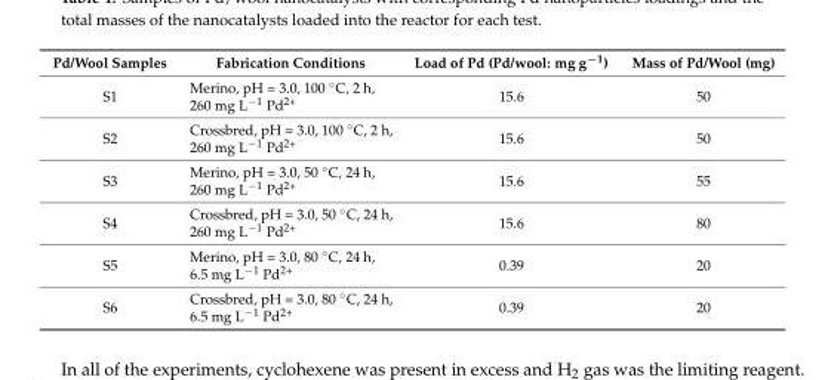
<table><thead><tr><td>Pd/Wool Samples</td><td>Fabrication Conditions</td><td>Load of Pd (Pd/wool: mg g<sup>−1</sup>)</td><td>Mass of Pd/Wool (mg)</td></tr></thead><tbody><tr><td>S1</td><td>Merino, pH = 3.0, 100 ◦C, 2 h, 260 mg L−1 Pd2+</td><td>15.6</td><td>50</td></tr><tr><td>S2</td><td>Crossbred, pH = 3.0, 100 ◦C, 2 h, 260 mg L−1 Pd2+</td><td>15.6</td><td>50</td></tr><tr><td>S3</td><td>Merino, pH = 3.0, 50 ◦C, 24 h, 260 mg L−1 Pd2+</td><td>15.6</td><td>55</td></tr><tr><td>S4</td><td>Crossbred, pH = 3.0, 50 ◦C, 24 h, 260 mg L−1 Pd2+</td><td>15.6</td><td>80</td></tr><tr><td>S5</td><td>Merino, pH = 3.0, 80 ◦C, 24 h, 6.5 mg L−1 Pd2+</td><td>0.39</td><td>20</td></tr><tr><td>S6</td><td>Crossbred, pH = 3.0, 80 ◦C, 24 h, 6.5 mg L−1 Pd2+</td><td>0.39</td><td>20</td></tr></tbody></table>